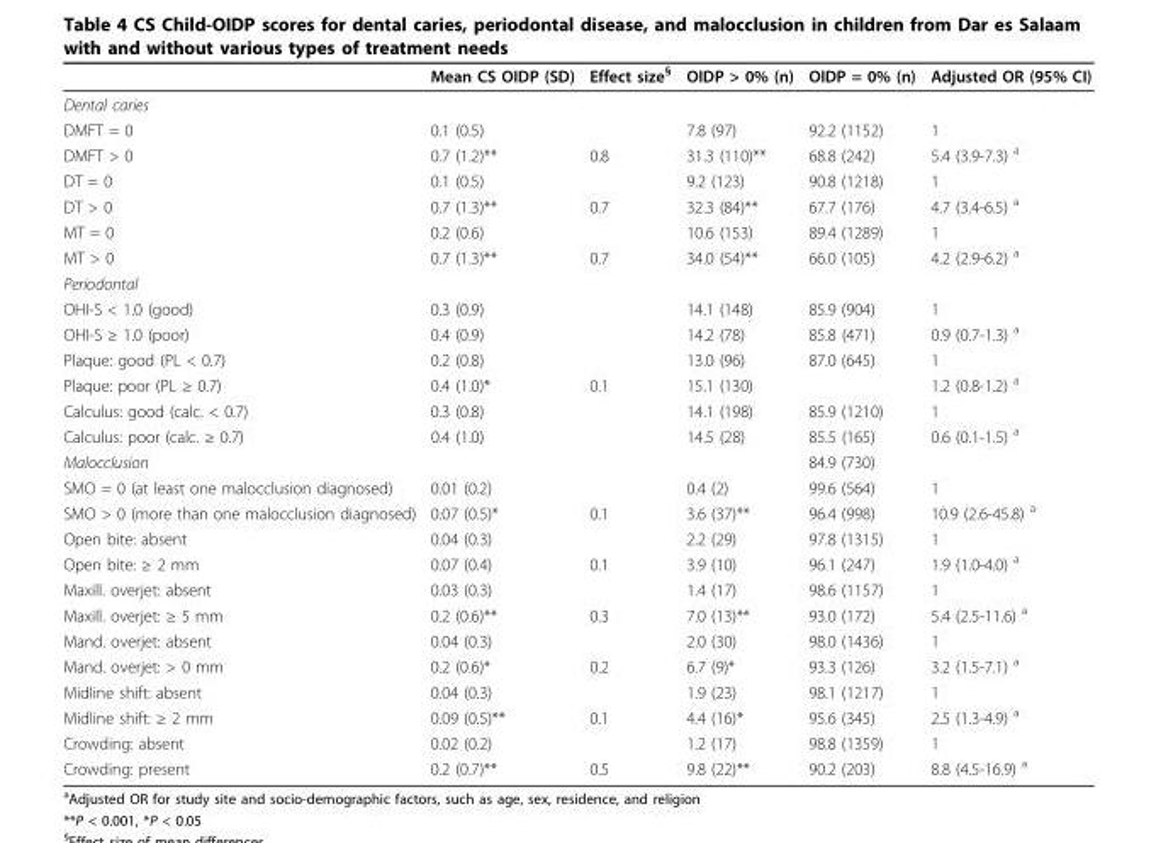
<table><thead><tr><td></td><td>Mean CS OIDP (SD)</td><td>Effect size<sup>§</sup></td><td>OIDP &gt; 0% (n)</td><td>OIDP = 0% (n)</td><td>Adjusted OR (95% CI)</td></tr></thead><tbody><tr><td colspan="6">Dental caries</td></tr><tr><td>DMFT = 0</td><td>0.1 (0.5)</td><td></td><td>7.8 (97)</td><td>92.2 (1152)</td><td>1</td></tr><tr><td>DMFT &gt; 0</td><td>0.7 (1.2)**</td><td>0.8</td><td>31.3 (110)**</td><td>68.8 (242)</td><td>5.4 (3.9-7.3) <sup>a</sup></td></tr><tr><td>DT = 0</td><td>0.1 (0.5)</td><td></td><td>9.2 (123)</td><td>90.8 (1218)</td><td>1</td></tr><tr><td>DT &gt; 0</td><td>0.7 (1.3)**</td><td>0.7</td><td>32.3 (84)**</td><td>67.7 (176)</td><td>4.7 (3.4-6.5) <sup>a</sup></td></tr><tr><td>MT = 0</td><td>0.2 (0.6)</td><td></td><td>10.6 (153)</td><td>89.4 (1289)</td><td>1</td></tr><tr><td>MT &gt; 0</td><td>0.7 (1.3)**</td><td>0.7</td><td>34.0 (54)**</td><td>66.0 (105)</td><td>4.2 (2.9-6.2) <sup>a</sup></td></tr><tr><td colspan="6">Periodontal</td></tr><tr><td>OHI-S &lt; 1.0 (good)</td><td>0.3 (0.9)</td><td></td><td>14.1 (148)</td><td>85.9 (904)</td><td>1</td></tr><tr><td>OHI-S ≥ 1.0 (poor)</td><td>0.4 (0.9)</td><td></td><td>14.2 (78)</td><td>85.8 (471)</td><td>0.9 (0.7-1.3) <sup>a</sup></td></tr><tr><td>Plaque: good (PL &lt; 0.7)</td><td>0.2 (0.8)</td><td></td><td>13.0 (96)</td><td>87.0 (645)</td><td>1</td></tr><tr><td>Plaque: poor (PL ≥ 0.7)</td><td>0.4 (1.0)*</td><td>0.1</td><td>15.1 (130)</td><td></td><td>1.2 (0.8-1.2) <sup>a</sup></td></tr><tr><td>Calculus: good (calc. &lt; 0.7)</td><td>0.3 (0.8)</td><td></td><td>14.1 (198)</td><td>85.9 (1210)</td><td>1</td></tr><tr><td>Calculus: poor (calc. ≥ 0.7)</td><td>0.4 (1.0)</td><td></td><td>14.5 (28)</td><td>85.5 (165)</td><td>0.6 (0.1-1.5) <sup>a</sup></td></tr><tr><td>Malocclusion</td><td></td><td></td><td></td><td>84.9 (730)</td><td></td></tr><tr><td>SMO = 0 (at least one malocclusion diagnosed)</td><td>0.01 (0.2)</td><td></td><td>0.4 (2)</td><td>99.6 (564)</td><td>1</td></tr><tr><td>SMO &gt; 0 (more than one malocclusion diagnosed)</td><td>0.07 (0.5)*</td><td>0.1</td><td>3.6 (37)**</td><td>96.4 (998)</td><td>10.9 (2.6-45.8) <sup>a</sup></td></tr><tr><td>Open bite: absent</td><td>0.04 (0.3)</td><td></td><td>2.2 (29)</td><td>97.8 (1315)</td><td>1</td></tr><tr><td>Open bite: ≥ 2 mm</td><td>0.07 (0.4)</td><td>0.1</td><td>3.9 (10)</td><td>96.1 (247)</td><td>1.9 (1.0-4.0) <sup>a</sup></td></tr><tr><td>Maxill. overjet: absent</td><td>0.03 (0.3)</td><td></td><td>1.4 (17)</td><td>98.6 (1157)</td><td>1</td></tr><tr><td>Maxill. overjet: ≥ 5 mm</td><td>0.2 (0.6)**</td><td>0.3</td><td>7.0 (13)**</td><td>93.0 (172)</td><td>5.4 (2.5-11.6) <sup>a</sup></td></tr><tr><td>Mand. overjet: absent</td><td>0.04 (0.3)</td><td></td><td>2.0 (30)</td><td>98.0 (1436)</td><td>1</td></tr><tr><td>Mand. overjet: &gt; 0 mm</td><td>0.2 (0.6)*</td><td>0.2</td><td>6.7 (9)*</td><td>93.3 (126)</td><td>3.2 (1.5-7.1) <sup>a</sup></td></tr><tr><td>Midline shift: absent</td><td>0.04 (0.3)</td><td></td><td>1.9 (23)</td><td>98.1 (1217)</td><td>1</td></tr><tr><td>Midline shift: ≥ 2 mm</td><td>0.09 (0.5)**</td><td>0.1</td><td>4.4 (16)*</td><td>95.6 (345)</td><td>2.5 (1.3-4.9) <sup>a</sup></td></tr><tr><td>Crowding: absent</td><td>0.02 (0.2)</td><td></td><td>1.2 (17)</td><td>98.8 (1359)</td><td>1</td></tr><tr><td>Crowding: present</td><td>0.2 (0.7)**</td><td>0.5</td><td>9.8 (22)**</td><td>90.2 (203)</td><td>8.8 (4.5-16.9) <sup>a</sup></td></tr></tbody></table>